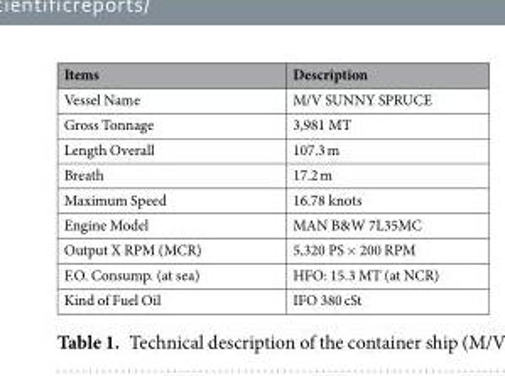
<table><thead><tr><td>Items</td><td>Description</td></tr></thead><tbody><tr><td>Vessel Name</td><td>M/V SUNNY SPRUCE</td></tr><tr><td>Gross Tonnage</td><td>3,981 MT</td></tr><tr><td>Length Overall</td><td>107.3 m</td></tr><tr><td>Breath</td><td>17.2 m</td></tr><tr><td>Maximum Speed</td><td>16.78 knots</td></tr><tr><td>Engine Model</td><td>MAN B&amp;W 7L35MC</td></tr><tr><td>Output X RPM (MCR)</td><td>5,320 PS × 200 RPM</td></tr><tr><td>F.O. Consump. (at sea)</td><td>HFO: 15.3 MT (at NCR)</td></tr><tr><td>Kind of Fuel Oil</td><td>IFO 380 cSt</td></tr></tbody></table>